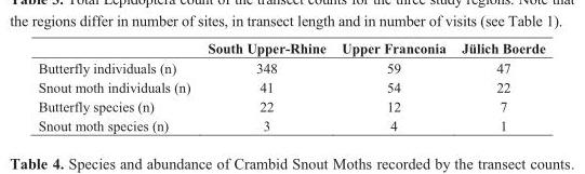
<table><thead><tr><td></td><td>South Upper-Rhine</td><td>Upper Franconia</td><td>Jülich Boerde</td></tr></thead><tbody><tr><td>Butterfly individuals (n)</td><td>348</td><td>59</td><td>47</td></tr><tr><td>Snout moth individuals (n)</td><td>41</td><td>54</td><td>22</td></tr><tr><td>Butterfly species (n)</td><td>22</td><td>12</td><td>7</td></tr><tr><td>Snout moth species (n)</td><td>3</td><td>4</td><td>1</td></tr></tbody></table>